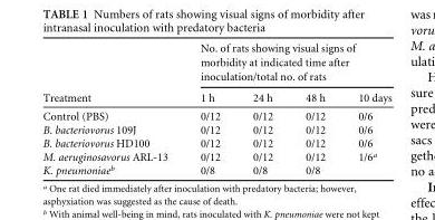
<table><thead><tr><td rowspan="2">Treatment</td><td colspan="4">No. of rats showing visual signs of morbidity at indicated time after inoculation/total no. of rats</td></tr><tr><td>1 h</td><td>24 h</td><td>48 h</td><td>10 days</td></tr></thead><tbody><tr><td>Control (PBS)</td><td>0/12</td><td>0/12</td><td>0/12</td><td>0/6</td></tr><tr><td>B. bacteriovorus 109J</td><td>0/12</td><td>0/12</td><td>0/12</td><td>0/6</td></tr><tr><td>B. bacteriovorus HD100</td><td>0/12</td><td>0/12</td><td>0/12</td><td>0/6</td></tr><tr><td>M. aeruginosavorus ARL-13</td><td>0/12</td><td>0/12</td><td>0/12</td><td>1/6<sup>a</sup></td></tr><tr><td>K. pneumoniae<sup>b</sup></td><td>0/8</td><td>0/8</td><td>0/8</td><td></td></tr></tbody></table>